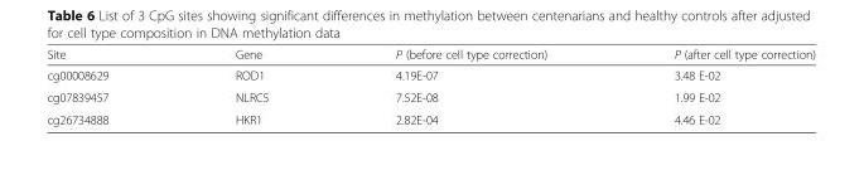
<table><thead><tr><td>Site</td><td>Gene</td><td>P (before cell type correction)</td><td>P (after cell type correction)</td></tr></thead><tbody><tr><td>cg00008629</td><td>ROD1</td><td>4.19E-07</td><td>3.48 E-02</td></tr><tr><td>cg07839457</td><td>NLRC5</td><td>7.52E-08</td><td>1.99 E-02</td></tr><tr><td>cg26734888</td><td>HKR1</td><td>2.82E-04</td><td>4.46 E-02</td></tr></tbody></table>